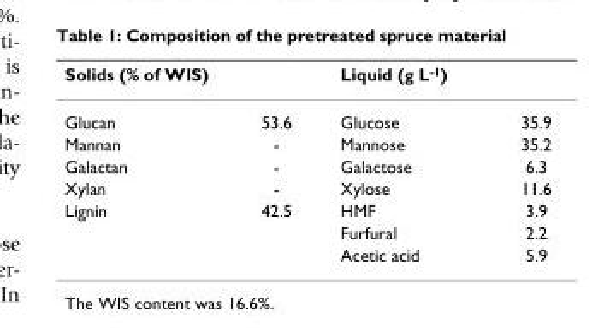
<table><thead><tr><td colspan="2">Solids (% of WIS)</td><td colspan="2">Liquid (g L<sup>-1</sup>)</td></tr><tr><td>Glucan</td><td>53.6</td><td>Glucose</td><td>35.9</td></tr></thead><tbody><tr><td>Mannan</td><td>-</td><td>Mannose</td><td>35.2</td></tr><tr><td>Galactan</td><td>-</td><td>Galactose</td><td>6.3</td></tr><tr><td>Xylan</td><td>-</td><td>Xylose</td><td>11.6</td></tr><tr><td rowspan="3">Lignin</td><td>42.5</td><td>HMF</td><td>3.9</td></tr><tr><td></td><td>Furfural</td><td>2.2</td></tr><tr><td></td><td>Acetic acid</td><td>5.9</td></tr></tbody></table>